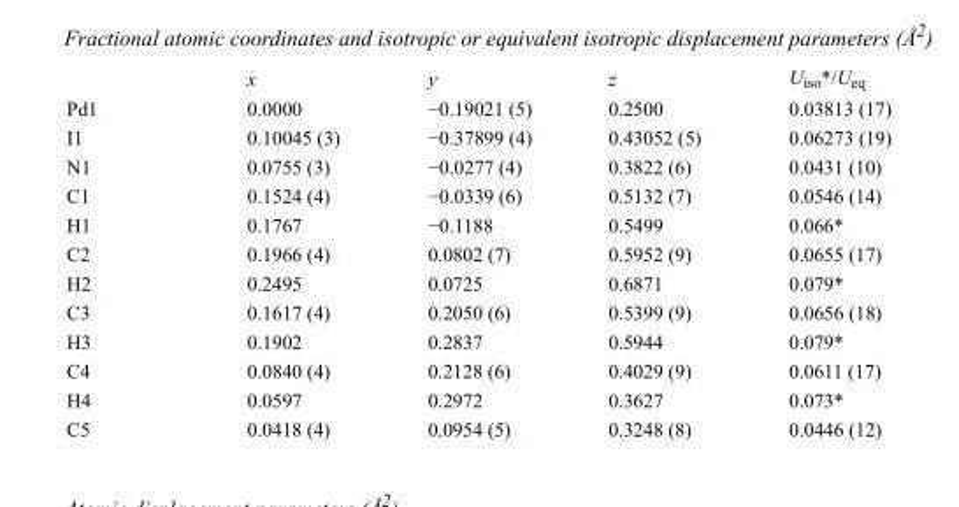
<table><thead><tr><td></td><td>x</td><td>y</td><td>z</td><td>U<sub>iso</sub>*/U<sub>eq</sub></td></tr></thead><tbody><tr><td>Pd1</td><td>0.0000</td><td>−0.19021 (5)</td><td>0.2500</td><td>0.03813 (17)</td></tr><tr><td>I1</td><td>0.10045 (3)</td><td>−0.37899 (4)</td><td>0.43052 (5)</td><td>0.06273 (19)</td></tr><tr><td>N1</td><td>0.0755 (3)</td><td>−0.0277 (4)</td><td>0.3822 (6)</td><td>0.0431 (10)</td></tr><tr><td>C1</td><td>0.1524 (4)</td><td>−0.0339 (6)</td><td>0.5132 (7)</td><td>0.0546 (14)</td></tr><tr><td>H1</td><td>0.1767</td><td>−0.1188</td><td>0.5499</td><td>0.066*</td></tr><tr><td>C2</td><td>0.1966 (4)</td><td>0.0802 (7)</td><td>0.5952 (9)</td><td>0.0655 (17)</td></tr><tr><td>H2</td><td>0.2495</td><td>0.0725</td><td>0.6871</td><td>0.079*</td></tr><tr><td>C3</td><td>0.1617 (4)</td><td>0.2050 (6)</td><td>0.5399 (9)</td><td>0.0656 (18)</td></tr><tr><td>H3</td><td>0.1902</td><td>0.2837</td><td>0.5944</td><td>0.079*</td></tr><tr><td>C4</td><td>0.0840 (4)</td><td>0.2128 (6)</td><td>0.4029 (9)</td><td>0.0611 (17)</td></tr><tr><td>H4</td><td>0.0597</td><td>0.2972</td><td>0.3627</td><td>0.073*</td></tr><tr><td>C5</td><td>0.0418 (4)</td><td>0.0954 (5)</td><td>0.3248 (8)</td><td>0.0446 (12)</td></tr></tbody></table>